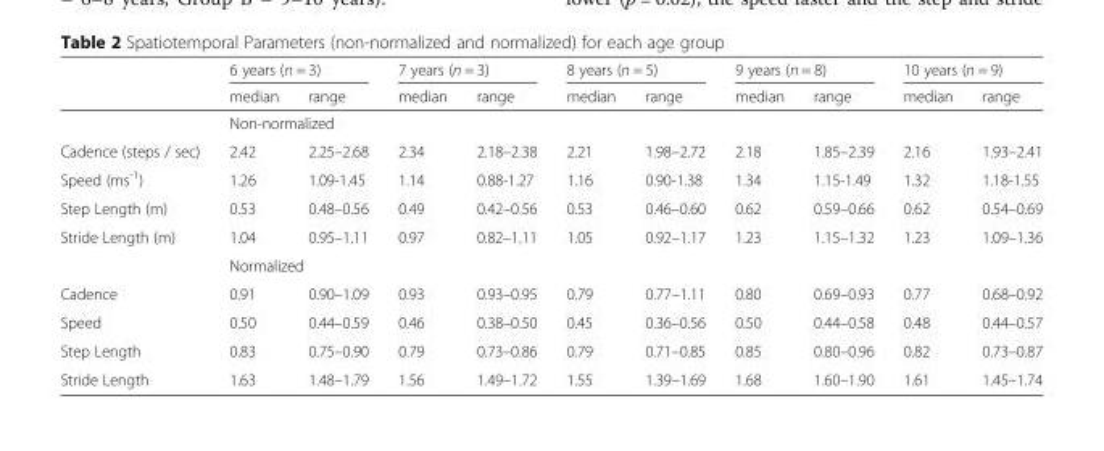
<table><thead><tr><td rowspan="2"></td><td colspan="2">6 years (n = 3)</td><td colspan="2">7 years (n = 3)</td><td colspan="2">8 years (n = 5)</td><td colspan="2">9 years (n = 8)</td><td colspan="2">10 years (n = 9)</td></tr><tr><td>median</td><td>range</td><td>median</td><td>range</td><td>median</td><td>range</td><td>median</td><td>range</td><td>median</td><td>range</td></tr></thead><tbody><tr><td></td><td colspan="10">Non-normalized</td></tr><tr><td>Cadence (steps / sec)</td><td>2.42</td><td>2.25–2.68</td><td>2.34</td><td>2.18–2.38</td><td>2.21</td><td>1.98–2.72</td><td>2.18</td><td>1.85–2.39</td><td>2.16</td><td>1.93–2.41</td></tr><tr><td>Speed (ms<sup>-1</sup>)</td><td>1.26</td><td>1.09-1.45</td><td>1.14</td><td>0.88-1.27</td><td>1.16</td><td>0.90-1.38</td><td>1.34</td><td>1.15-1.49</td><td>1.32</td><td>1.18-1.55</td></tr><tr><td>Step Length (m)</td><td>0.53</td><td>0.48–0.56</td><td>0.49</td><td>0.42–0.56</td><td>0.53</td><td>0.46–0.60</td><td>0.62</td><td>0.59–0.66</td><td>0.62</td><td>0.54–0.69</td></tr><tr><td rowspan="2">Stride Length (m)</td><td>1.04</td><td>0.95–1.11</td><td>0.97</td><td>0.82–1.11</td><td>1.05</td><td>0.92–1.17</td><td>1.23</td><td>1.15–1.32</td><td>1.23</td><td>1.09–1.36</td></tr><tr><td colspan="10">Normalized</td></tr><tr><td>Cadence</td><td>0.91</td><td>0.90–1.09</td><td>0.93</td><td>0.93–0.95</td><td>0.79</td><td>0.77–1.11</td><td>0.80</td><td>0.69–0.93</td><td>0.77</td><td>0.68–0.92</td></tr><tr><td>Speed</td><td>0.50</td><td>0.44–0.59</td><td>0.46</td><td>0.38–0.50</td><td>0.45</td><td>0.36–0.56</td><td>0.50</td><td>0.44–0.58</td><td>0.48</td><td>0.44–0.57</td></tr><tr><td>Step Length</td><td>0.83</td><td>0.75–0.90</td><td>0.79</td><td>0.73–0.86</td><td>0.79</td><td>0.71–0.85</td><td>0.85</td><td>0.80–0.96</td><td>0.82</td><td>0.73–0.87</td></tr><tr><td>Stride Length</td><td>1.63</td><td>1.48–1.79</td><td>1.56</td><td>1.49–1.72</td><td>1.55</td><td>1.39–1.69</td><td>1.68</td><td>1.60–1.90</td><td>1.61</td><td>1.45–1.74</td></tr></tbody></table>